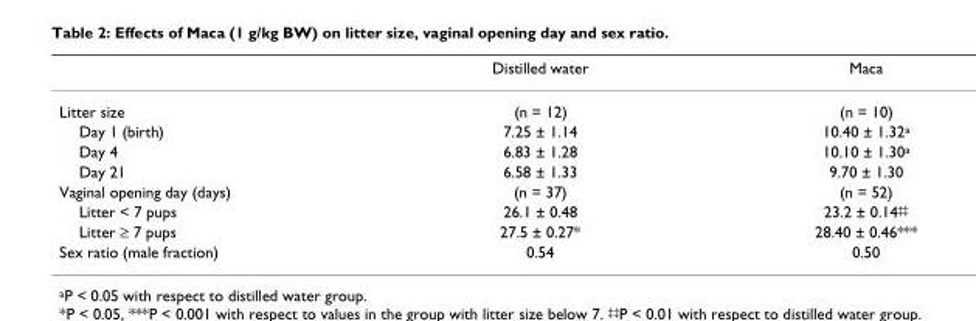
<table><thead><tr><td></td><td>Distilled water</td><td>Maca</td></tr></thead><tbody><tr><td>Litter size</td><td>(n = 12)</td><td>(n = 10)</td></tr><tr><td>Day 1 (birth)</td><td>7.25 ± 1.14</td><td>10.40 ± 1.32<sup>a</sup></td></tr><tr><td>Day 4</td><td>6.83 ± 1.28</td><td>10.10 ± 1.30<sup>a</sup></td></tr><tr><td>Day 21</td><td>6.58 ± 1.33</td><td>9.70 ± 1.30</td></tr><tr><td>Vaginal opening day (days)</td><td>(n = 37)</td><td>(n = 52)</td></tr><tr><td>Litter &lt; 7 pups</td><td>26.1 ± 0.48</td><td>23.2 ± 0.14<sup>‡‡</sup></td></tr><tr><td>Litter ≥ 7 pups</td><td>27.5 ± 0.27*</td><td>28.40 ± 0.46***</td></tr><tr><td>Sex ratio (male fraction)</td><td>0.54</td><td>0.50</td></tr></tbody></table>